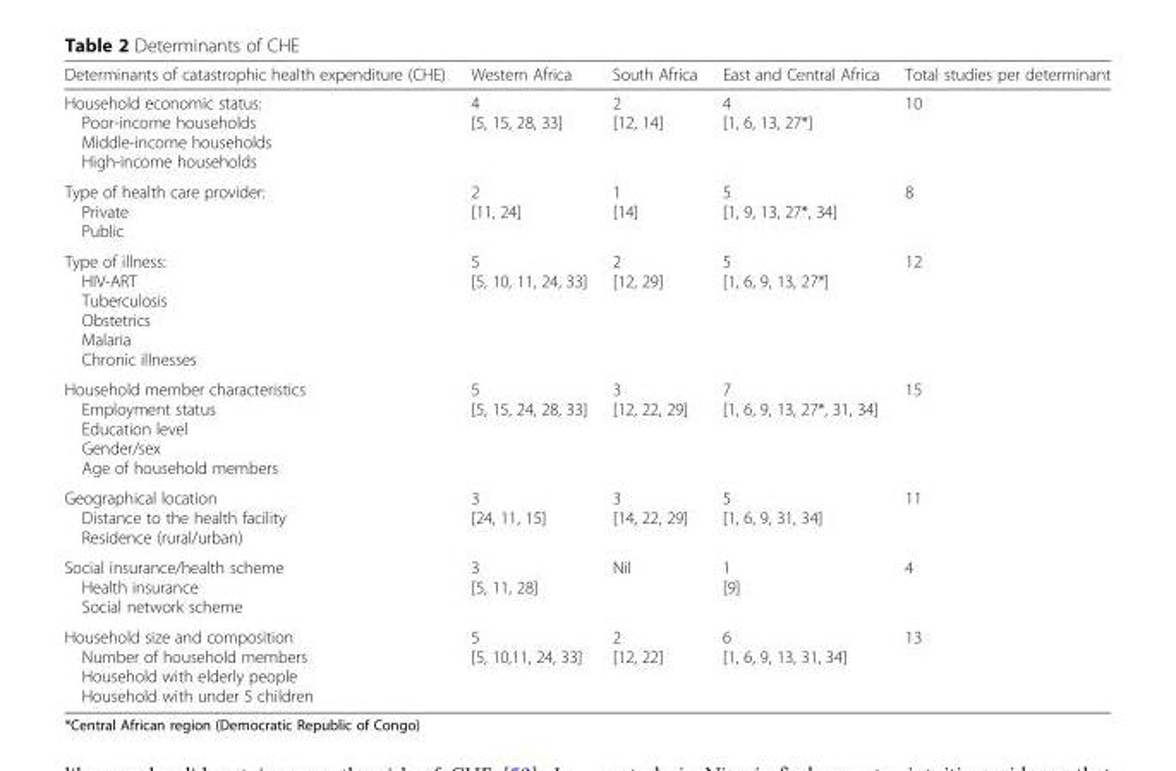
<table><thead><tr><td>Determinants of catastrophic health expenditure (CHE)</td><td>Western Africa</td><td>South Africa</td><td>East and Central Africa</td><td>Total studies per determinant</td></tr></thead><tbody><tr><td>Household economic status: Poor-income households Middle-income households High-income households</td><td>4 [5, 15, 28, 33]</td><td>2 [12, 14]</td><td>4 [1, 6, 13, 27*]</td><td>10</td></tr><tr><td>Type of health care provider: Private Public</td><td>2 [11, 24]</td><td>1 [14]</td><td>5 [1, 9, 13, 27*, 34]</td><td>8</td></tr><tr><td>Type of illness: HIV-ART Tuberculosis Obstetrics Malaria Chronic illnesses</td><td>5 [5, 10, 11, 24, 33]</td><td>2 [12, 29]</td><td>5 [1, 6, 9, 13, 27*]</td><td>12</td></tr><tr><td>Household member characteristics Employment status Education level Gender/sex Age of household members</td><td>5 [5, 15, 24, 28, 33]</td><td>3 [12, 22, 29]</td><td>7 [1, 6, 9, 13, 27*, 31, 34]</td><td>15</td></tr><tr><td>Geographical location Distance to the health facility Residence (rural/urban)</td><td>3 [24, 11, 15]</td><td>3 [14, 22, 29]</td><td>5 [1, 6, 9, 31, 34]</td><td>11</td></tr><tr><td>Social insurance/health scheme Health insurance Social network scheme</td><td>3 [5, 11, 28]</td><td>Nil</td><td>1 [9]</td><td>4</td></tr><tr><td>Household size and composition Number of household members Household with elderly people Household with under 5 children</td><td>5 [5, 10,11, 24, 33]</td><td>2 [12, 22]</td><td>6 [1, 6, 9, 13, 31, 34]</td><td>13</td></tr></tbody></table>